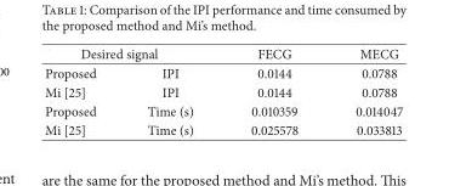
<table><thead><tr><td colspan="2">Desired signal</td><td rowspan="2">FECG 0.0144</td><td rowspan="2">MECG 0.0788</td></tr><tr><td>Proposed</td><td>IPI</td></tr></thead><tbody><tr><td>Mi [25]</td><td>IPI</td><td>0.0144</td><td>0.0788</td></tr><tr><td>Proposed</td><td>Time (s)</td><td>0.010359</td><td>0.014047</td></tr><tr><td>Mi [25]</td><td>Time (s)</td><td>0.025578</td><td>0.033813</td></tr></tbody></table>